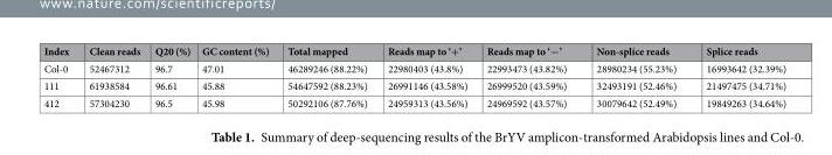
<table><thead><tr><td>Index</td><td>Clean reads</td><td>Q20 (%)</td><td>GC content (%)</td><td>Total mapped</td><td>Reads map to ‘+’</td><td>Reads map to ‘−’</td><td>Non-splice reads</td><td>Splice reads</td></tr></thead><tbody><tr><td>Col-0</td><td>52467312</td><td>96.7</td><td>47.01</td><td>46289246 (88.22%)</td><td>22980403 (43.8%)</td><td>22993473 (43.82%)</td><td>28980234 (55.23%)</td><td>16993642 (32.39%)</td></tr><tr><td>111</td><td>61938584</td><td>96.61</td><td>45.88</td><td>54647592 (88.23%)</td><td>26991146 (43.58%)</td><td>26999520 (43.59%)</td><td>32493191 (52.46%)</td><td>21497475 (34.71%)</td></tr><tr><td>412</td><td>57304230</td><td>96.5</td><td>45.98</td><td>50292106 (87.76%)</td><td>24959313 (43.56%)</td><td>24969592 (43.57%)</td><td>30079642 (52.49%)</td><td>19849263 (34.64%)</td></tr></tbody></table>